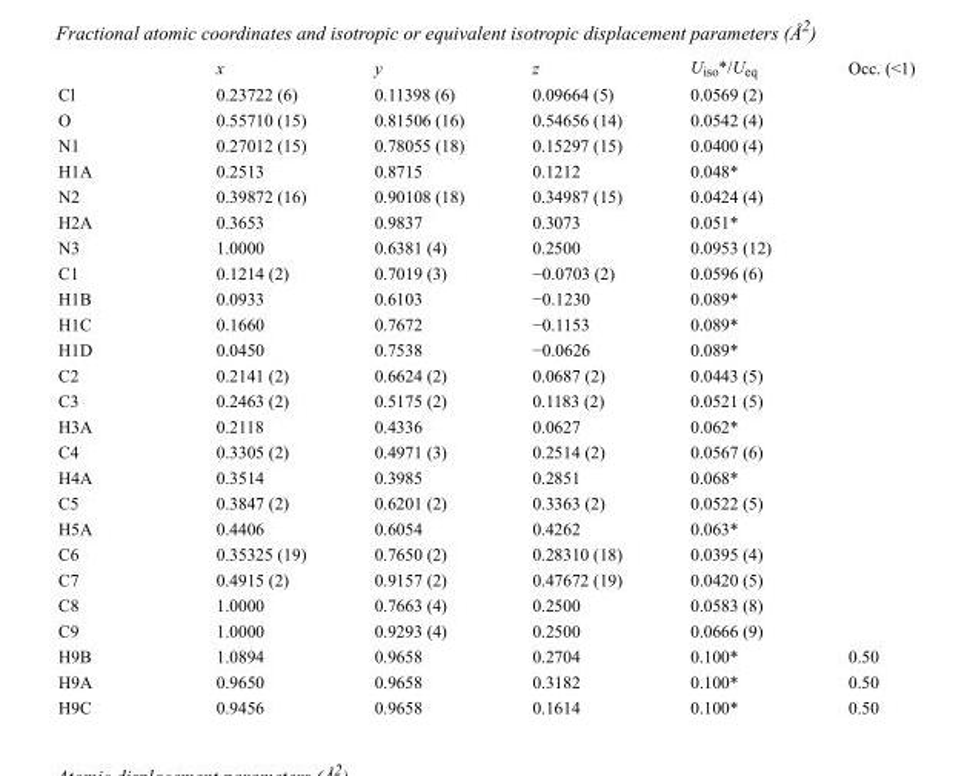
<table><thead><tr><td></td><td>x</td><td>y</td><td>z</td><td>U<sub>iso</sub>*/U<sub>eq</sub></td><td>Occ. (&lt;1)</td></tr></thead><tbody><tr><td>Cl</td><td>0.23722 (6)</td><td>0.11398 (6)</td><td>0.09664 (5)</td><td>0.0569 (2)</td><td></td></tr><tr><td>O</td><td>0.55710 (15)</td><td>0.81506 (16)</td><td>0.54656 (14)</td><td>0.0542 (4)</td><td></td></tr><tr><td>N1</td><td>0.27012 (15)</td><td>0.78055 (18)</td><td>0.15297 (15)</td><td>0.0400 (4)</td><td></td></tr><tr><td>H1A</td><td>0.2513</td><td>0.8715</td><td>0.1212</td><td>0.048*</td><td></td></tr><tr><td>N2</td><td>0.39872 (16)</td><td>0.90108 (18)</td><td>0.34987 (15)</td><td>0.0424 (4)</td><td></td></tr><tr><td>H2A</td><td>0.3653</td><td>0.9837</td><td>0.3073</td><td>0.051*</td><td></td></tr><tr><td>N3</td><td>1.0000</td><td>0.6381 (4)</td><td>0.2500</td><td>0.0953 (12)</td><td></td></tr><tr><td>C1</td><td>0.1214 (2)</td><td>0.7019 (3)</td><td>−0.0703 (2)</td><td>0.0596 (6)</td><td></td></tr><tr><td>H1B</td><td>0.0933</td><td>0.6103</td><td>−0.1230</td><td>0.089*</td><td></td></tr><tr><td>H1C</td><td>0.1660</td><td>0.7672</td><td>−0.1153</td><td>0.089*</td><td></td></tr><tr><td>H1D</td><td>0.0450</td><td>0.7538</td><td>−0.0626</td><td>0.089*</td><td></td></tr><tr><td>C2</td><td>0.2141 (2)</td><td>0.6624 (2)</td><td>0.0687 (2)</td><td>0.0443 (5)</td><td></td></tr><tr><td>C3</td><td>0.2463 (2)</td><td>0.5175 (2)</td><td>0.1183 (2)</td><td>0.0521 (5)</td><td></td></tr><tr><td>H3A</td><td>0.2118</td><td>0.4336</td><td>0.0627</td><td>0.062*</td><td></td></tr><tr><td>C4</td><td>0.3305 (2)</td><td>0.4971 (3)</td><td>0.2514 (2)</td><td>0.0567 (6)</td><td></td></tr><tr><td>H4A</td><td>0.3514</td><td>0.3985</td><td>0.2851</td><td>0.068*</td><td></td></tr><tr><td>C5</td><td>0.3847 (2)</td><td>0.6201 (2)</td><td>0.3363 (2)</td><td>0.0522 (5)</td><td></td></tr><tr><td>H5A</td><td>0.4406</td><td>0.6054</td><td>0.4262</td><td>0.063*</td><td></td></tr><tr><td>C6</td><td>0.35325 (19)</td><td>0.7650 (2)</td><td>0.28310 (18)</td><td>0.0395 (4)</td><td></td></tr><tr><td>C7</td><td>0.4915 (2)</td><td>0.9157 (2)</td><td>0.47672 (19)</td><td>0.0420 (5)</td><td></td></tr><tr><td>C8</td><td>1.0000</td><td>0.7663 (4)</td><td>0.2500</td><td>0.0583 (8)</td><td></td></tr><tr><td>C9</td><td>1.0000</td><td>0.9293 (4)</td><td>0.2500</td><td>0.0666 (9)</td><td></td></tr><tr><td>H9B</td><td>1.0894</td><td>0.9658</td><td>0.2704</td><td>0.100*</td><td>0.50</td></tr><tr><td>H9A</td><td>0.9650</td><td>0.9658</td><td>0.3182</td><td>0.100*</td><td>0.50</td></tr><tr><td>H9C</td><td>0.9456</td><td>0.9658</td><td>0.1614</td><td>0.100*</td><td>0.50</td></tr></tbody></table>